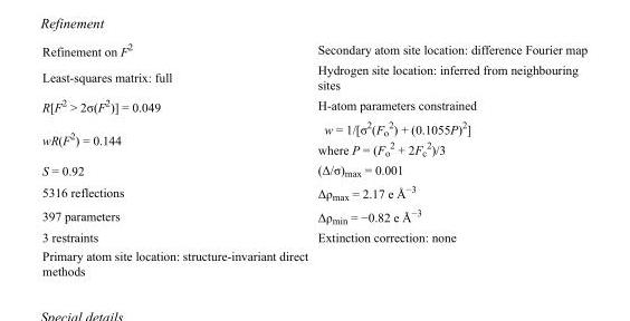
<table><tbody><tr><td>Refinement on F<sup>2</sup></td><td>Secondary atom site location: difference Fourier map</td></tr><tr><td>Least-squares matrix: full</td><td>Hydrogen site location: inferred from neighbouring sites</td></tr><tr><td>R[F<sup>2</sup> &gt; 2σ(F<sup>2</sup>)] = 0.049</td><td>H-atom parameters constrained</td></tr><tr><td>wR(F<sup>2</sup>) = 0.144</td><td>w = 1/[σ<sup>2</sup>(F<sub>o</sub> <sup>2</sup>) + (0.1055P)<sup>2</sup>] where P = (F<sub>o</sub> <sup>2</sup> + 2F<sub>c</sub> <sup>2</sup>)/3</td></tr><tr><td>S = 0.92</td><td>(Δ/σ)<sub>max</sub> = 0.001</td></tr><tr><td>5316 reflections</td><td>Δρ<sub>max</sub> = 2.17 e Å<sup>−3</sup></td></tr><tr><td>397 parameters</td><td>Δρ<sub>min</sub> = −0.82 e Å<sup>−3</sup></td></tr><tr><td>3 restraints</td><td>Extinction correction: none</td></tr><tr><td>Primary atom site location: structure-invariant direct methods</td><td></td></tr></tbody></table>